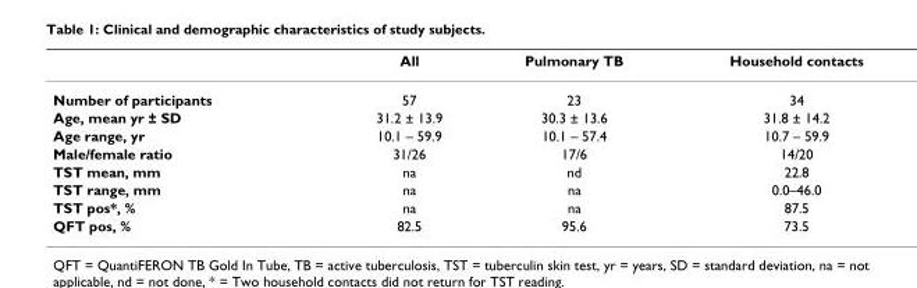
<table><thead><tr><td></td><td>All</td><td>Pulmonary TB</td><td>Household contacts</td></tr></thead><tbody><tr><td>Number of participants</td><td>57</td><td>23</td><td>34</td></tr><tr><td>Age, mean yr ± SD</td><td>31.2 ± 13.9</td><td>30.3 ± 13.6</td><td>31.8 ± 14.2</td></tr><tr><td>Age range, yr</td><td>10.1 – 59.9</td><td>10.1 – 57.4</td><td>10.7 – 59.9</td></tr><tr><td>Male/female ratio</td><td>31/26</td><td>17/6</td><td>14/20</td></tr><tr><td>TST mean, mm</td><td>na</td><td>nd</td><td>22.8</td></tr><tr><td>TST range, mm</td><td>na</td><td>na</td><td>0.0–46.0</td></tr><tr><td>TST pos*, %</td><td>na</td><td>na</td><td>87.5</td></tr><tr><td>QFT pos, %</td><td>82.5</td><td>95.6</td><td>73.5</td></tr></tbody></table>